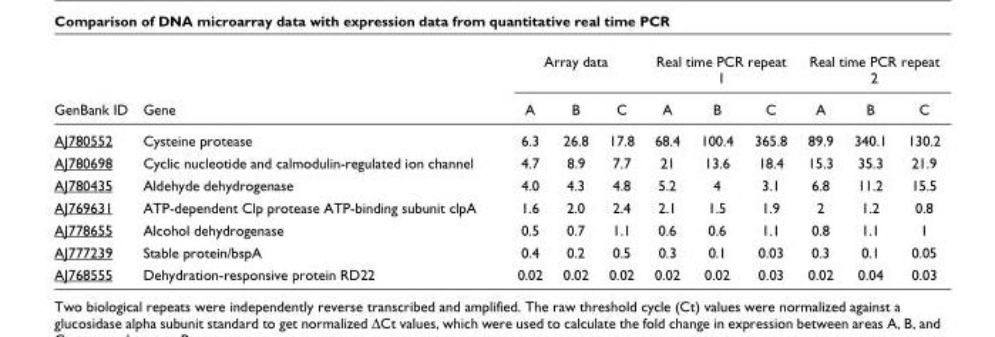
<table><thead><tr><td rowspan="2">GenBank ID</td><td rowspan="2">Gene</td><td colspan="3">Array data</td><td colspan="3">Real time PCR repeat 1</td><td colspan="3">Real time PCR repeat 2</td></tr><tr><td>A</td><td>B</td><td>C</td><td>A</td><td>B</td><td>C</td><td>A</td><td>B</td><td>C</td></tr></thead><tbody><tr><td>AJ780552</td><td>Cysteine protease</td><td>6.3</td><td>26.8</td><td>17.8</td><td>68.4</td><td>100.4</td><td>365.8</td><td>89.9</td><td>340.1</td><td>130.2</td></tr><tr><td>AJ780698</td><td>Cyclic nucleotide and calmodulin-regulated ion channel</td><td>4.7</td><td>8.9</td><td>7.7</td><td>21</td><td>13.6</td><td>18.4</td><td>15.3</td><td>35.3</td><td>21.9</td></tr><tr><td>AJ780435</td><td>Aldehyde dehydrogenase</td><td>4.0</td><td>4.3</td><td>4.8</td><td>5.2</td><td>4</td><td>3.1</td><td>6.8</td><td>11.2</td><td>15.5</td></tr><tr><td>AJ769631</td><td>ATP-dependent Clp protease ATP-binding subunit clpA</td><td>1.6</td><td>2.0</td><td>2.4</td><td>2.1</td><td>1.5</td><td>1.9</td><td>2</td><td>1.2</td><td>0.8</td></tr><tr><td>AJ778655</td><td>Alcohol dehydrogenase</td><td>0.5</td><td>0.7</td><td>1.1</td><td>0.6</td><td>0.6</td><td>1.1</td><td>0.8</td><td>1.1</td><td>1</td></tr><tr><td>AJ777239</td><td>Stable protein/bspA</td><td>0.4</td><td>0.2</td><td>0.5</td><td>0.3</td><td>0.1</td><td>0.03</td><td>0.3</td><td>0.1</td><td>0.05</td></tr><tr><td>AJ768555</td><td>Dehydration-responsive protein RD22</td><td>0.02</td><td>0.02</td><td>0.02</td><td>0.02</td><td>0.02</td><td>0.03</td><td>0.02</td><td>0.04</td><td>0.03</td></tr></tbody></table>